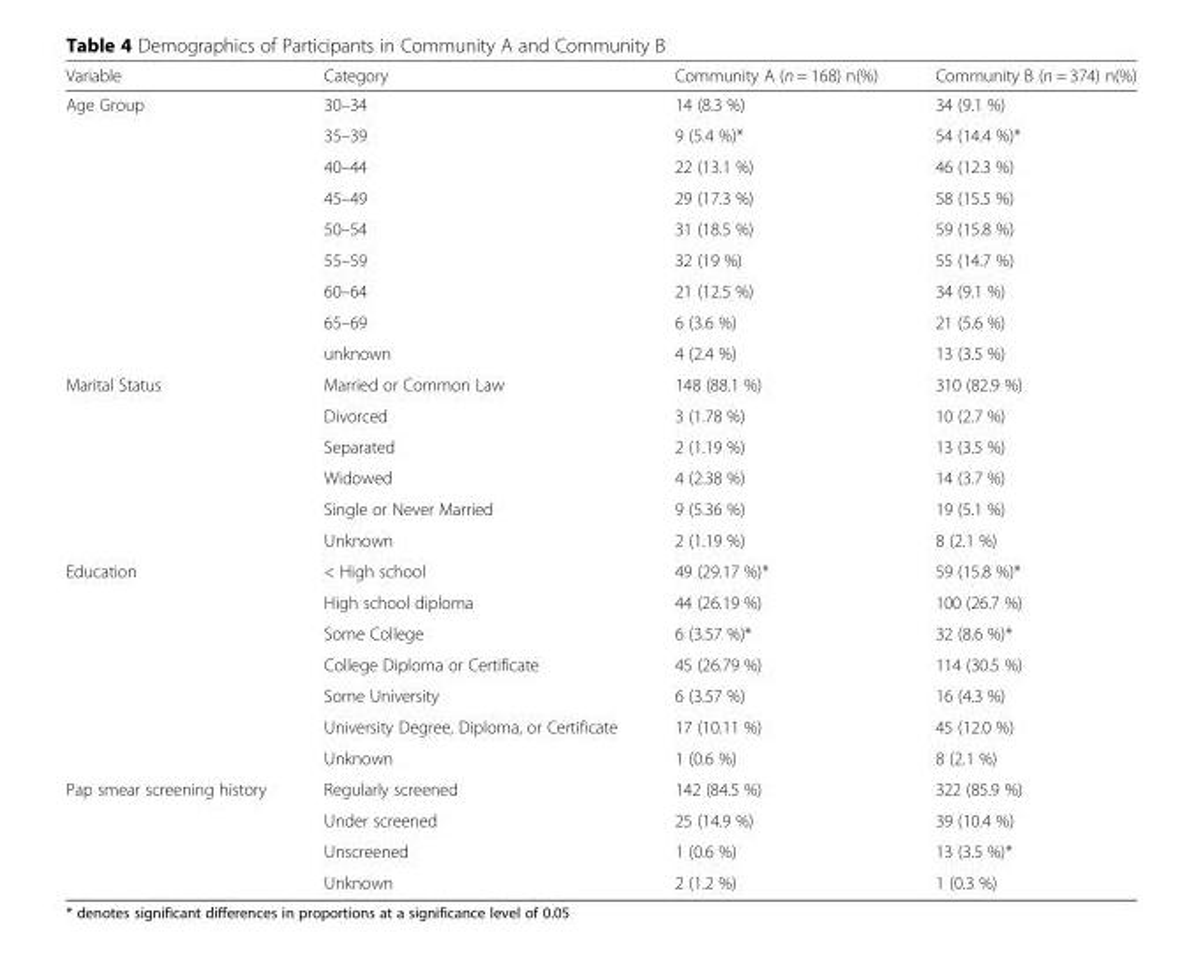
<table><thead><tr><td>Variable</td><td>Category</td><td>Community A (n = 168) n(%)</td><td>Community B (n = 374) n(%)</td></tr></thead><tbody><tr><td rowspan="9">Age Group</td><td>30–34</td><td>14 (8.3 %)</td><td>34 (9.1 %)</td></tr><tr><td>35–39</td><td>9 (5.4 %)*</td><td>54 (14.4 %)*</td></tr><tr><td>40–44</td><td>22 (13.1 %)</td><td>46 (12.3 %)</td></tr><tr><td>45–49</td><td>29 (17.3 %)</td><td>58 (15.5 %)</td></tr><tr><td>50–54</td><td>31 (18.5 %)</td><td>59 (15.8 %)</td></tr><tr><td>55–59</td><td>32 (19 %)</td><td>55 (14.7 %)</td></tr><tr><td>60–64</td><td>21 (12.5 %)</td><td>34 (9.1 %)</td></tr><tr><td>65–69</td><td>6 (3.6 %)</td><td>21 (5.6 %)</td></tr><tr><td>unknown</td><td>4 (2.4 %)</td><td>13 (3.5 %)</td></tr><tr><td rowspan="6">Marital Status</td><td>Married or Common Law</td><td>148 (88.1 %)</td><td>310 (82.9 %)</td></tr><tr><td>Divorced</td><td>3 (1.78 %)</td><td>10 (2.7 %)</td></tr><tr><td>Separated</td><td>2 (1.19 %)</td><td>13 (3.5 %)</td></tr><tr><td>Widowed</td><td>4 (2.38 %)</td><td>14 (3.7 %)</td></tr><tr><td>Single or Never Married</td><td>9 (5.36 %)</td><td>19 (5.1 %)</td></tr><tr><td>Unknown</td><td>2 (1.19 %)</td><td>8 (2.1 %)</td></tr><tr><td rowspan="7">Education</td><td>&lt; High school</td><td>49 (29.17 %)*</td><td>59 (15.8 %)*</td></tr><tr><td>High school diploma</td><td>44 (26.19 %)</td><td>100 (26.7 %)</td></tr><tr><td>Some College</td><td>6 (3.57 %)*</td><td>32 (8.6 %)*</td></tr><tr><td>College Diploma or Certificate</td><td>45 (26.79 %)</td><td>114 (30.5 %)</td></tr><tr><td>Some University</td><td>6 (3.57 %)</td><td>16 (4.3 %)</td></tr><tr><td>University Degree, Diploma, or Certificate</td><td>17 (10.11 %)</td><td>45 (12.0 %)</td></tr><tr><td>Unknown</td><td>1 (0.6 %)</td><td>8 (2.1 %)</td></tr><tr><td rowspan="4">Pap smear screening history</td><td>Regularly screened</td><td>142 (84.5 %)</td><td>322 (85.9 %)</td></tr><tr><td>Under screened</td><td>25 (14.9 %)</td><td>39 (10.4 %)</td></tr><tr><td>Unscreened</td><td>1 (0.6 %)</td><td>13 (3.5 %)*</td></tr><tr><td>Unknown</td><td>2 (1.2 %)</td><td>1 (0.3 %)</td></tr></tbody></table>